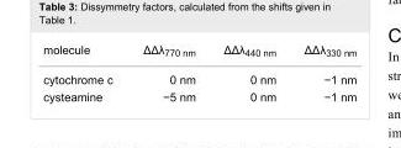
<table><tbody><tr><td>molecule</td><td>ΔΔλ<sub>770 nm</sub></td><td>ΔΔλ<sub>440 nm</sub></td><td>ΔΔλ<sub>330 nm</sub></td></tr><tr><td>cytochrome c</td><td>0 nm</td><td>0 nm</td><td>−1 nm</td></tr><tr><td>cysteamine</td><td>−5 nm</td><td>0 nm</td><td>−1 nm</td></tr></tbody></table>